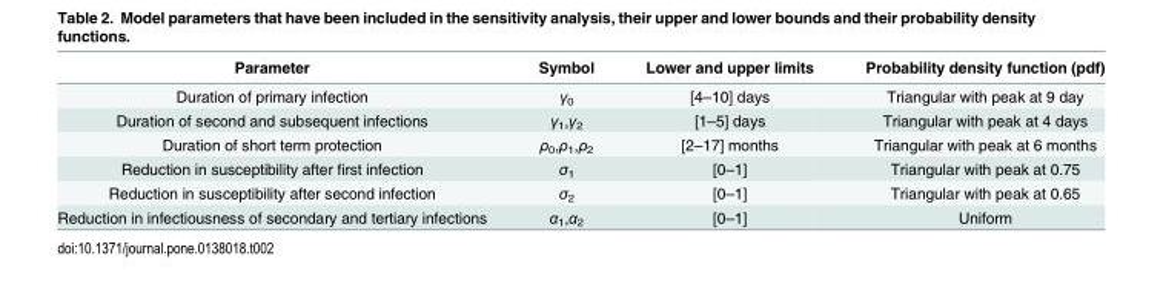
<table><thead><tr><td>Parameter</td><td>Symbol</td><td>Lower and upper limits</td><td>Probability density function (pdf)</td></tr></thead><tbody><tr><td>Duration of primary infection</td><td>γ<sub>0</sub></td><td>[4–10] days</td><td>Triangular with peak at 9 day</td></tr><tr><td>Duration of second and subsequent infections</td><td>γ<sub>1</sub>,γ<sub>2</sub></td><td>[1–5] days</td><td>Triangular with peak at 4 days</td></tr><tr><td>Duration of short term protection</td><td>ρ<sub>0</sub>,ρ<sub>1</sub>,ρ<sub>2</sub></td><td>[2–17] months</td><td>Triangular with peak at 6 months</td></tr><tr><td>Reduction in susceptibility after first infection</td><td>σ<sub>1</sub></td><td>[0–1]</td><td>Triangular with peak at 0.75</td></tr><tr><td>Reduction in susceptibility after second infection</td><td>σ<sub>2</sub></td><td>[0–1]</td><td>Triangular with peak at 0.65</td></tr><tr><td>Reduction in infectiousness of secondary and tertiary infections</td><td>α<sub>1</sub>,α<sub>2</sub></td><td>[0–1]</td><td>Uniform</td></tr></tbody></table>